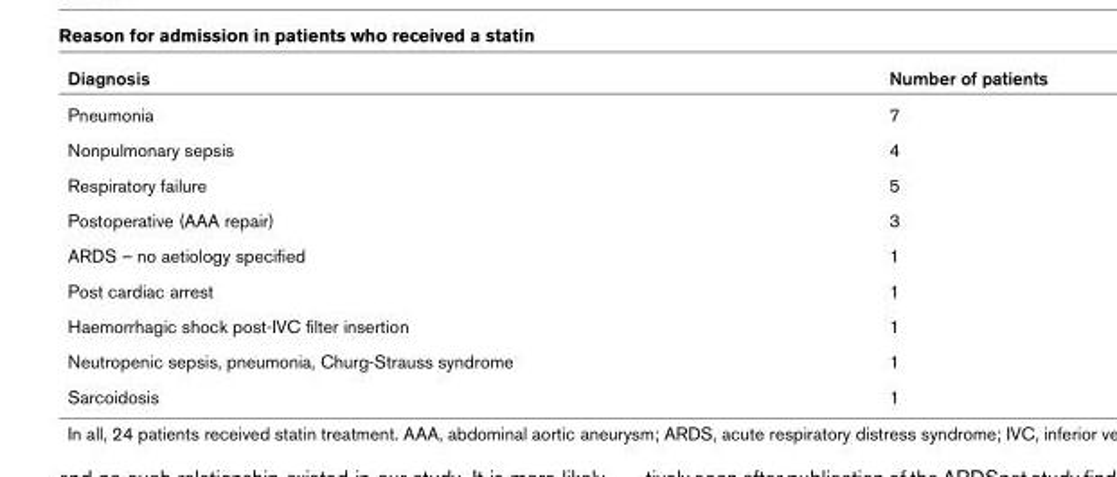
<table><thead><tr><td>Diagnosis</td><td>Number of patients</td></tr></thead><tbody><tr><td>Pneumonia</td><td>7</td></tr><tr><td>Nonpulmonary sepsis</td><td>4</td></tr><tr><td>Respiratory failure</td><td>5</td></tr><tr><td>Postoperative (AAA repair)</td><td>3</td></tr><tr><td>ARDS – no aetiology specified</td><td>1</td></tr><tr><td>Post cardiac arrest</td><td>1</td></tr><tr><td>Haemorrhagic shock post-IVC filter insertion</td><td>1</td></tr><tr><td>Neutropenic sepsis, pneumonia, Churg-Strauss syndrome</td><td>1</td></tr><tr><td>Sarcoidosis</td><td>1</td></tr></tbody></table>